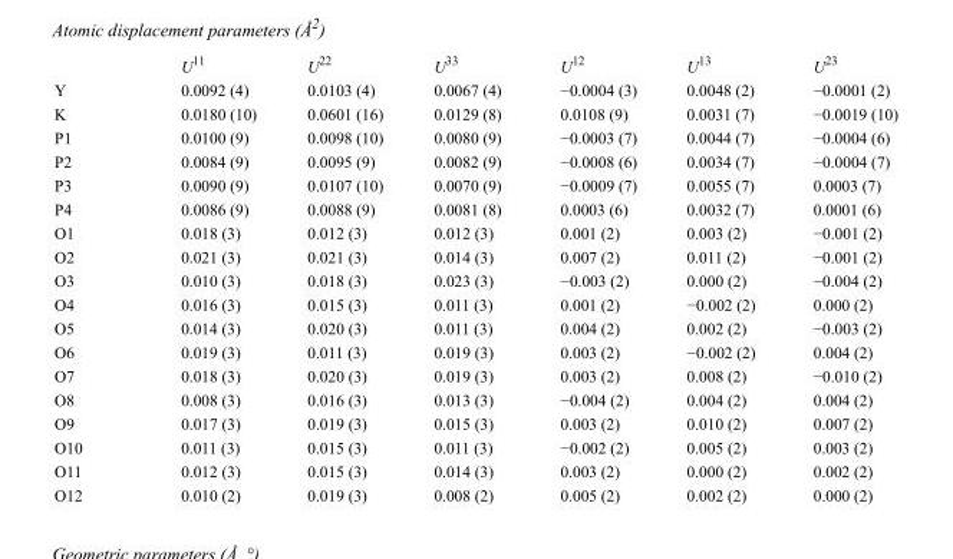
<table><thead><tr><td></td><td>U<sup>11</sup></td><td>U<sup>22</sup></td><td>U<sup>33</sup></td><td>U<sup>12</sup></td><td>U<sup>13</sup></td><td>U<sup>23</sup></td></tr></thead><tbody><tr><td>Y</td><td>0.0092 (4)</td><td>0.0103 (4)</td><td>0.0067 (4)</td><td>−0.0004 (3)</td><td>0.0048 (2)</td><td>−0.0001 (2)</td></tr><tr><td>K</td><td>0.0180 (10)</td><td>0.0601 (16)</td><td>0.0129 (8)</td><td>0.0108 (9)</td><td>0.0031 (7)</td><td>−0.0019 (10)</td></tr><tr><td>P1</td><td>0.0100 (9)</td><td>0.0098 (10)</td><td>0.0080 (9)</td><td>−0.0003 (7)</td><td>0.0044 (7)</td><td>−0.0004 (6)</td></tr><tr><td>P2</td><td>0.0084 (9)</td><td>0.0095 (9)</td><td>0.0082 (9)</td><td>−0.0008 (6)</td><td>0.0034 (7)</td><td>−0.0004 (7)</td></tr><tr><td>P3</td><td>0.0090 (9)</td><td>0.0107 (10)</td><td>0.0070 (9)</td><td>−0.0009 (7)</td><td>0.0055 (7)</td><td>0.0003 (7)</td></tr><tr><td>P4</td><td>0.0086 (9)</td><td>0.0088 (9)</td><td>0.0081 (8)</td><td>0.0003 (6)</td><td>0.0032 (7)</td><td>0.0001 (6)</td></tr><tr><td>O1</td><td>0.018 (3)</td><td>0.012 (3)</td><td>0.012 (3)</td><td>0.001 (2)</td><td>0.003 (2)</td><td>−0.001 (2)</td></tr><tr><td>O2</td><td>0.021 (3)</td><td>0.021 (3)</td><td>0.014 (3)</td><td>0.007 (2)</td><td>0.011 (2)</td><td>−0.001 (2)</td></tr><tr><td>O3</td><td>0.010 (3)</td><td>0.018 (3)</td><td>0.023 (3)</td><td>−0.003 (2)</td><td>0.000 (2)</td><td>−0.004 (2)</td></tr><tr><td>O4</td><td>0.016 (3)</td><td>0.015 (3)</td><td>0.011 (3)</td><td>0.001 (2)</td><td>−0.002 (2)</td><td>0.000 (2)</td></tr><tr><td>O5</td><td>0.014 (3)</td><td>0.020 (3)</td><td>0.011 (3)</td><td>0.004 (2)</td><td>0.002 (2)</td><td>−0.003 (2)</td></tr><tr><td>O6</td><td>0.019 (3)</td><td>0.011 (3)</td><td>0.019 (3)</td><td>0.003 (2)</td><td>−0.002 (2)</td><td>0.004 (2)</td></tr><tr><td>O7</td><td>0.018 (3)</td><td>0.020 (3)</td><td>0.019 (3)</td><td>0.003 (2)</td><td>0.008 (2)</td><td>−0.010 (2)</td></tr><tr><td>O8</td><td>0.008 (3)</td><td>0.016 (3)</td><td>0.013 (3)</td><td>−0.004 (2)</td><td>0.004 (2)</td><td>0.004 (2)</td></tr><tr><td>O9</td><td>0.017 (3)</td><td>0.019 (3)</td><td>0.015 (3)</td><td>0.003 (2)</td><td>0.010 (2)</td><td>0.007 (2)</td></tr><tr><td>O10</td><td>0.011 (3)</td><td>0.015 (3)</td><td>0.011 (3)</td><td>−0.002 (2)</td><td>0.005 (2)</td><td>0.003 (2)</td></tr><tr><td>O11</td><td>0.012 (3)</td><td>0.015 (3)</td><td>0.014 (3)</td><td>0.003 (2)</td><td>0.000 (2)</td><td>0.002 (2)</td></tr><tr><td>O12</td><td>0.010 (2)</td><td>0.019 (3)</td><td>0.008 (2)</td><td>0.005 (2)</td><td>0.002 (2)</td><td>0.000 (2)</td></tr></tbody></table>